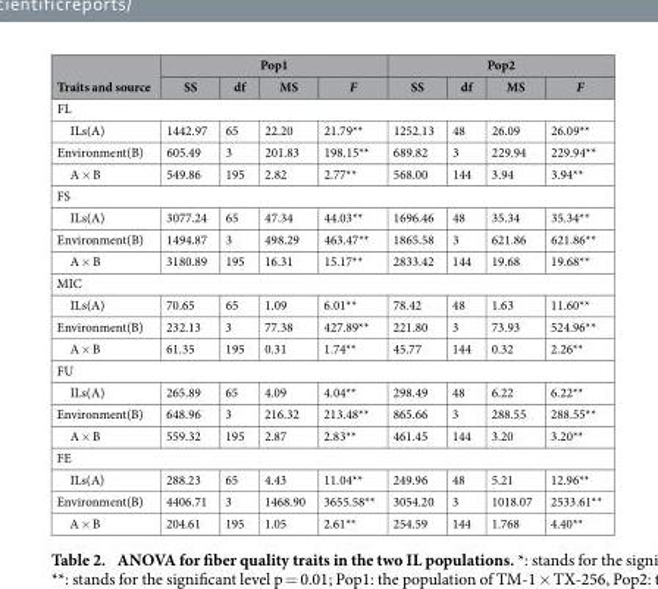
<table><thead><tr><td rowspan="2">Traits and source</td><td colspan="4">Pop1</td><td colspan="4">Pop2</td></tr><tr><td>SS</td><td>df</td><td>MS</td><td>F</td><td>SS</td><td>df</td><td>MS</td><td>F</td></tr></thead><tbody><tr><td colspan="9">FL</td></tr><tr><td>ILs(A)</td><td>1442.97</td><td>65</td><td>22.20</td><td>21.79**</td><td>1252.13</td><td>48</td><td>26.09</td><td>26.09**</td></tr><tr><td>Environment(B)</td><td>605.49</td><td>3</td><td>201.83</td><td>198.15**</td><td>689.82</td><td>3</td><td>229.94</td><td>229.94**</td></tr><tr><td>A × B</td><td>549.86</td><td>195</td><td>2.82</td><td>2.77**</td><td>568.00</td><td>144</td><td>3.94</td><td>3.94**</td></tr><tr><td colspan="9">FS</td></tr><tr><td>ILs(A)</td><td>3077.24</td><td>65</td><td>47.34</td><td>44.03**</td><td>1696.46</td><td>48</td><td>35.34</td><td>35.34**</td></tr><tr><td>Environment(B)</td><td>1494.87</td><td>3</td><td>498.29</td><td>463.47**</td><td>1865.58</td><td>3</td><td>621.86</td><td>621.86**</td></tr><tr><td>A × B</td><td>3180.89</td><td>195</td><td>16.31</td><td>15.17**</td><td>2833.42</td><td>144</td><td>19.68</td><td>19.68**</td></tr><tr><td colspan="9">MIC</td></tr><tr><td>ILs(A)</td><td>70.65</td><td>65</td><td>1.09</td><td>6.01**</td><td>78.42</td><td>48</td><td>1.63</td><td>11.60**</td></tr><tr><td>Environment(B)</td><td>232.13</td><td>3</td><td>77.38</td><td>427.89**</td><td>221.80</td><td>3</td><td>73.93</td><td>524.96**</td></tr><tr><td>A × B</td><td>61.35</td><td>195</td><td>0.31</td><td>1.74**</td><td>45.77</td><td>144</td><td>0.32</td><td>2.26**</td></tr><tr><td colspan="9">FU</td></tr><tr><td>ILs(A)</td><td>265.89</td><td>65</td><td>4.09</td><td>4.04**</td><td>298.49</td><td>48</td><td>6.22</td><td>6.22**</td></tr><tr><td>Environment(B)</td><td>648.96</td><td>3</td><td>216.32</td><td>213.48**</td><td>865.66</td><td>3</td><td>288.55</td><td>288.55**</td></tr><tr><td>A × B</td><td>559.32</td><td>195</td><td>2.87</td><td>2.83**</td><td>461.45</td><td>144</td><td>3.20</td><td>3.20**</td></tr><tr><td colspan="9">FE</td></tr><tr><td>ILs(A)</td><td>288.23</td><td>65</td><td>4.43</td><td>11.04**</td><td>249.96</td><td>48</td><td>5.21</td><td>12.96**</td></tr><tr><td>Environment(B)</td><td>4406.71</td><td>3</td><td>1468.90</td><td>3655.58**</td><td>3054.20</td><td>3</td><td>1018.07</td><td>2533.61**</td></tr><tr><td>A × B</td><td>204.61</td><td>195</td><td>1.05</td><td>2.61**</td><td>254.59</td><td>144</td><td>1.768</td><td>4.40**</td></tr></tbody></table>